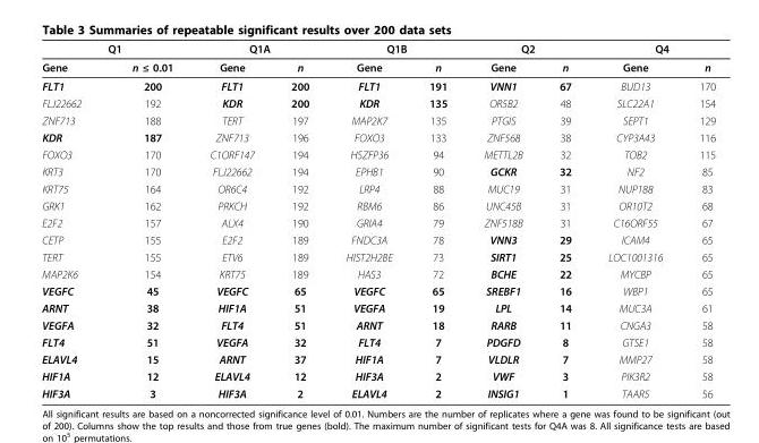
<table><thead><tr><td colspan="2">Q1</td><td colspan="2">Q1A</td><td colspan="2">Q1B</td><td colspan="2">Q2</td><td colspan="2">Q4</td></tr><tr><td>Gene</td><td>n ≤ 0.01</td><td>Gene</td><td>n</td><td>Gene</td><td>n</td><td>Gene</td><td>n</td><td>Gene</td><td>n</td></tr></thead><tbody><tr><td>FLT1</td><td>200</td><td>FLT1</td><td>200</td><td>FLT1</td><td>191</td><td>VNN1</td><td>67</td><td>BUD13</td><td>170</td></tr><tr><td>FLJ22662</td><td>192</td><td>KDR</td><td>200</td><td>KDR</td><td>135</td><td>OR5B2</td><td>48</td><td>SLC22A1</td><td>154</td></tr><tr><td>ZNF713</td><td>188</td><td>TERT</td><td>197</td><td>MAP2K7</td><td>135</td><td>PTGIS</td><td>39</td><td>SEPT1</td><td>129</td></tr><tr><td>KDR</td><td>187</td><td>ZNF713</td><td>196</td><td>FOXO3</td><td>133</td><td>ZNF568</td><td>38</td><td>CYP3A43</td><td>116</td></tr><tr><td>FOXO3</td><td>170</td><td>C1ORF147</td><td>194</td><td>HSZFP36</td><td>94</td><td>METTL2B</td><td>32</td><td>TOB2</td><td>115</td></tr><tr><td>KRT3</td><td>170</td><td>FLJ22662</td><td>194</td><td>EPHB1</td><td>90</td><td>GCKR</td><td>32</td><td>NF2</td><td>85</td></tr><tr><td>KRT75</td><td>164</td><td>OR6C4</td><td>192</td><td>LRP4</td><td>88</td><td>MUC19</td><td>31</td><td>NUP188</td><td>83</td></tr><tr><td>GRK1</td><td>162</td><td>PRKCH</td><td>192</td><td>RBM6</td><td>86</td><td>UNC45B</td><td>31</td><td>OR10T2</td><td>68</td></tr><tr><td>E2F2</td><td>157</td><td>ALX4</td><td>190</td><td>GRIA4</td><td>79</td><td>ZNF518B</td><td>31</td><td>C16ORF55</td><td>67</td></tr><tr><td>CETP</td><td>155</td><td>E2F2</td><td>189</td><td>FNDC3A</td><td>78</td><td>VNN3</td><td>29</td><td>ICAM4</td><td>65</td></tr><tr><td>TERT</td><td>155</td><td>ETV6</td><td>189</td><td>HIST2H2BE</td><td>73</td><td>SIRT1</td><td>25</td><td>LOC1001316</td><td>65</td></tr><tr><td>MAP2K6</td><td>154</td><td>KRT75</td><td>189</td><td>HAS3</td><td>72</td><td>BCHE</td><td>22</td><td>MYCBP</td><td>65</td></tr><tr><td>VEGFC</td><td>45</td><td>VEGFC</td><td>65</td><td>VEGFC</td><td>65</td><td>SREBF1</td><td>16</td><td>WBP1</td><td>65</td></tr><tr><td>ARNT</td><td>38</td><td>HIF1A</td><td>51</td><td>VEGFA</td><td>19</td><td>LPL</td><td>14</td><td>MUC3A</td><td>61</td></tr><tr><td>VEGFA</td><td>32</td><td>FLT4</td><td>51</td><td>ARNT</td><td>18</td><td>RARB</td><td>11</td><td>CNGA3</td><td>58</td></tr><tr><td>FLT4</td><td>51</td><td>VEGFA</td><td>32</td><td>FLT4</td><td>7</td><td>PDGFD</td><td>8</td><td>GTSE1</td><td>58</td></tr><tr><td>ELAVL4</td><td>15</td><td>ARNT</td><td>37</td><td>HIF1A</td><td>7</td><td>VLDLR</td><td>7</td><td>MMP27</td><td>58</td></tr><tr><td>HIF1A</td><td>12</td><td>ELAVL4</td><td>12</td><td>HIF3A</td><td>2</td><td>VWF</td><td>3</td><td>PIK3R2</td><td>58</td></tr><tr><td>HIF3A</td><td>3</td><td>HIF3A</td><td>2</td><td>ELAVL4</td><td>2</td><td>INSIG1</td><td>1</td><td>TAAR5</td><td>56</td></tr></tbody></table>